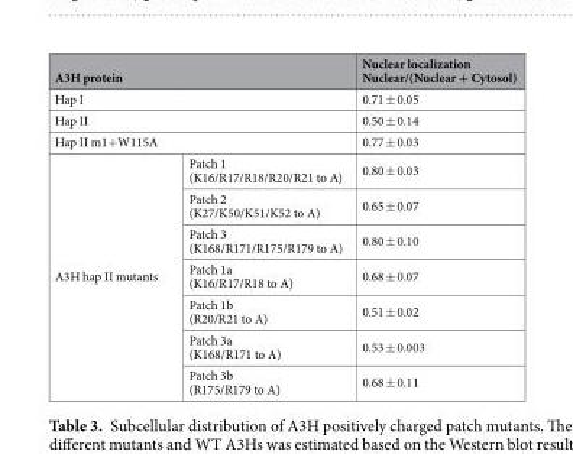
<table><thead><tr><td colspan="2">A3H protein</td><td>Nuclear localization Nuclear/(Nuclear + Cytosol)</td></tr></thead><tbody><tr><td colspan="2">Hap I</td><td>0.71 ± 0.05</td></tr><tr><td colspan="2">Hap II</td><td>0.50 ± 0.14</td></tr><tr><td colspan="2">Hap II m1+W115A</td><td>0.77 ± 0.03</td></tr><tr><td rowspan="7">A3H hap II mutants</td><td>Patch 1 (K16/R17/R18/R20/R21 to A)</td><td>0.80 ± 0.03</td></tr><tr><td>Patch 2 (K27/K50/K51/K52 to A)</td><td>0.65 ± 0.07</td></tr><tr><td>Patch 3 (K168/R171/R175/R179 to A)</td><td>0.80 ± 0.10</td></tr><tr><td>Patch 1a (K16/R17/R18 to A)</td><td>0.68 ± 0.07</td></tr><tr><td>Patch 1b (R20/R21 to A)</td><td>0.51 ± 0.02</td></tr><tr><td>Patch 3a (K168/R171 to A)</td><td>0.53 ± 0.003</td></tr><tr><td>Patch 3b (R175/R179 to A)</td><td>0.68 ± 0.11</td></tr></tbody></table>